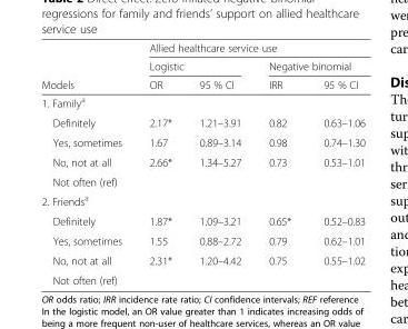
<table><thead><tr><td rowspan="3">Models</td><td colspan="4">Allied healthcare service use</td></tr><tr><td colspan="2">Logistic</td><td colspan="2">Negative binomial</td></tr><tr><td>OR</td><td>95 % CI</td><td>IRR</td><td>95 % CI</td></tr></thead><tbody><tr><td colspan="5">1. Family<sup>a</sup></td></tr><tr><td>Definitely</td><td>2.17*</td><td>1.21–3.91</td><td>0.82</td><td>0.63–1.06</td></tr><tr><td>Yes, sometimes</td><td>1.67</td><td>0.89–3.14</td><td>0.98</td><td>0.74–1.30</td></tr><tr><td>No, not at all</td><td>2.66*</td><td>1.34–5.27</td><td>0.73</td><td>0.53–1.01</td></tr><tr><td colspan="5">Not often (ref)</td></tr><tr><td colspan="5">2. Friends<sup>a</sup></td></tr><tr><td>Definitely</td><td>1.87*</td><td>1.09–3.21</td><td>0.65*</td><td>0.52–0.83</td></tr><tr><td>Yes, sometimes</td><td>1.55</td><td>0.88–2.72</td><td>0.79</td><td>0.62–1.01</td></tr><tr><td>No, not at all</td><td>2.31*</td><td>1.20–4.42</td><td>0.75</td><td>0.55–1.02</td></tr><tr><td>Not often (ref)</td><td></td><td></td><td></td><td></td></tr></tbody></table>